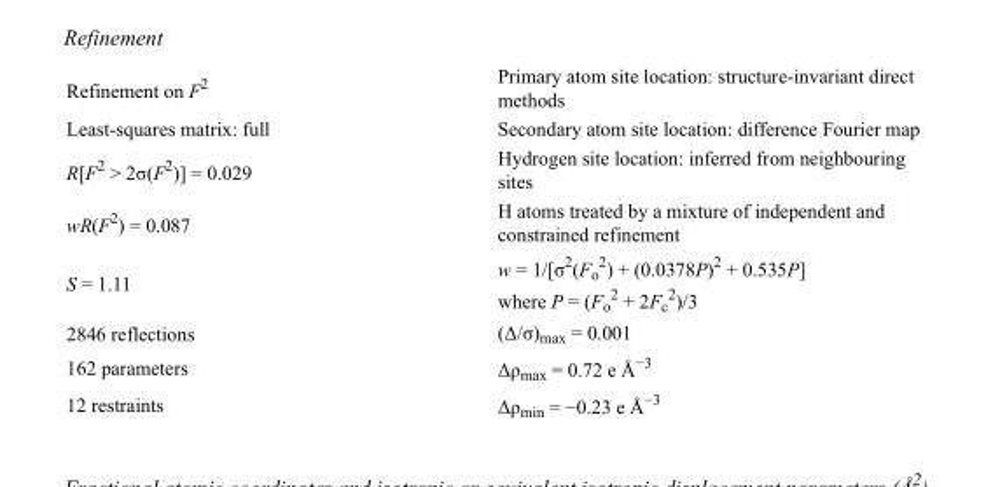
<table><tbody><tr><td>Refinement on F<sup>2</sup></td><td>Primary atom site location: structure-invariant direct methods</td></tr><tr><td>Least-squares matrix: full</td><td>Secondary atom site location: difference Fourier map</td></tr><tr><td>R[F<sup>2</sup> &gt; 2σ(F<sup>2</sup>)] = 0.029</td><td>Hydrogen site location: inferred from neighbouring sites</td></tr><tr><td>wR(F<sup>2</sup>) = 0.087</td><td>H atoms treated by a mixture of independent and constrained refinement</td></tr><tr><td>S = 1.11</td><td>w = 1/[σ<sup>2</sup>(F<sub>o</sub> <sup>2</sup>) + (0.0378P)<sup>2</sup> + 0.535P] where P = (F<sub>o</sub> <sup>2</sup> + 2F<sub>c</sub> <sup>2</sup>)/3</td></tr><tr><td>2846 reflections</td><td>(Δ/σ)<sub>max</sub> = 0.001</td></tr><tr><td>162 parameters</td><td>Δρ<sub>max</sub> = 0.72 e Å<sup>−3</sup></td></tr><tr><td>12 restraints</td><td>Δρ<sub>min</sub> = −0.23 e Å<sup>−3</sup></td></tr></tbody></table>